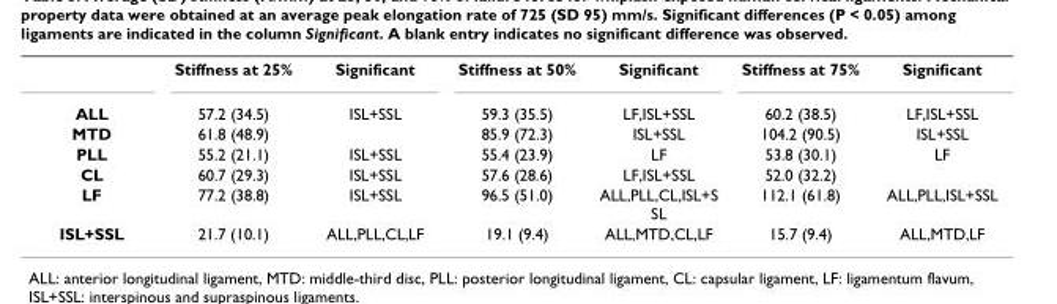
<table><thead><tr><td></td><td>Stiffness at 25%</td><td>Significant</td><td>Stiffness at 50%</td><td>Significant</td><td>Stiffness at 75%</td><td>Significant</td></tr></thead><tbody><tr><td>ALL</td><td>57.2 (34.5)</td><td>ISL+SSL</td><td>59.3 (35.5)</td><td>LF,ISL+SSL</td><td>60.2 (38.5)</td><td>LF,ISL+SSL</td></tr><tr><td>MTD</td><td>61.8 (48.9)</td><td></td><td>85.9 (72.3)</td><td>ISL+SSL</td><td>104.2 (90.5)</td><td>ISL+SSL</td></tr><tr><td>PLL</td><td>55.2 (21.1)</td><td>ISL+SSL</td><td>55.4 (23.9)</td><td>LF</td><td>53.8 (30.1)</td><td>LF</td></tr><tr><td>CL</td><td>60.7 (29.3)</td><td>ISL+SSL</td><td>57.6 (28.6)</td><td>LF,ISL+SSL</td><td>52.0 (32.2)</td><td></td></tr><tr><td>LF</td><td>77.2 (38.8)</td><td>ISL+SSL</td><td>96.5 (51.0)</td><td>ALL,PLL,CL,ISL+S SL</td><td>112.1 (61.8)</td><td>ALL,PLL,ISL+SSL</td></tr><tr><td>ISL+SSL</td><td>21.7 (10.1)</td><td>ALL,PLL,CL,LF</td><td>19.1 (9.4)</td><td>ALL,MTD,CL,LF</td><td>15.7 (9.4)</td><td>ALL,MTD,LF</td></tr></tbody></table>